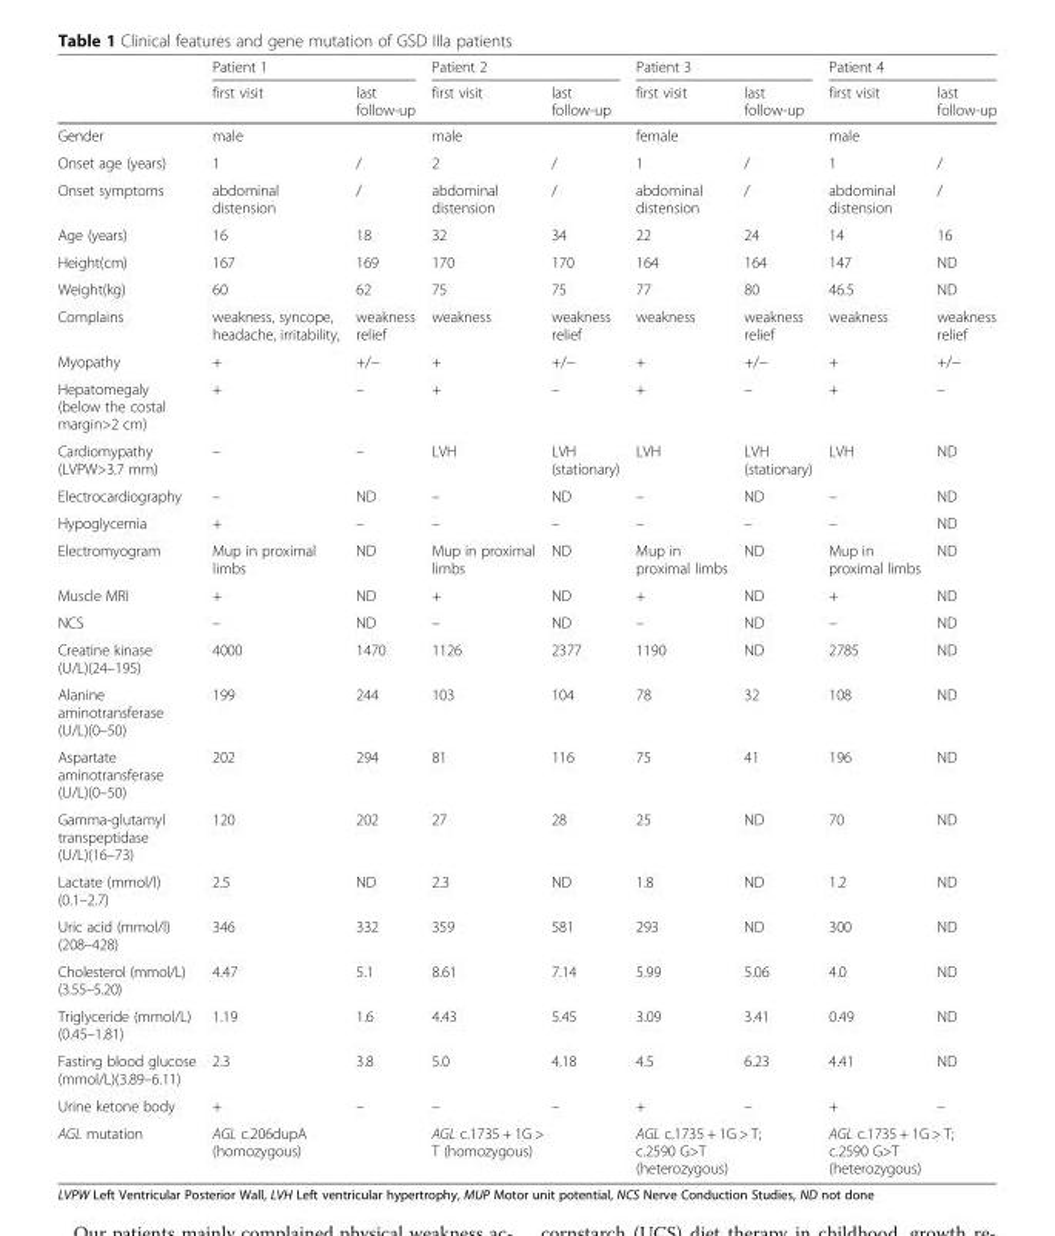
<table><thead><tr><td rowspan="2"></td><td colspan="2">Patient 1</td><td colspan="2">Patient 2</td><td colspan="2">Patient 3</td><td colspan="2">Patient 4</td></tr><tr><td>first visit</td><td>last follow-up</td><td>first visit</td><td>last follow-up</td><td>first visit</td><td>last follow-up</td><td>first visit</td><td>last follow-up</td></tr></thead><tbody><tr><td>Gender</td><td colspan="2">male</td><td colspan="2">male</td><td colspan="2">female</td><td colspan="2">male</td></tr><tr><td>Onset age (years)</td><td>1</td><td>/</td><td>2</td><td>/</td><td>1</td><td>/</td><td>1</td><td>/</td></tr><tr><td>Onset symptoms</td><td>abdominal distension</td><td>/</td><td>abdominal distension</td><td>/</td><td>abdominal distension</td><td>/</td><td>abdominal distension</td><td>/</td></tr><tr><td>Age (years)</td><td>16</td><td>18</td><td>32</td><td>34</td><td>22</td><td>24</td><td>14</td><td>16</td></tr><tr><td>Height(cm)</td><td>167</td><td>169</td><td>170</td><td>170</td><td>164</td><td>164</td><td>147</td><td>ND</td></tr><tr><td>Weight(kg)</td><td>60</td><td>62</td><td>75</td><td>75</td><td>77</td><td>80</td><td>46.5</td><td>ND</td></tr><tr><td>Complains</td><td>weakness, syncope, headache, irritability,</td><td>weakness relief</td><td>weakness</td><td>weakness relief</td><td>weakness</td><td>weakness relief</td><td>weakness</td><td>weakness relief</td></tr><tr><td>Myopathy</td><td>+</td><td>+/−</td><td>+</td><td>+/−</td><td>+</td><td>+/−</td><td>+</td><td>+/−</td></tr><tr><td>Hepatomegaly (below the costal margin&gt;2 cm)</td><td>+</td><td>–</td><td>+</td><td>–</td><td>+</td><td>–</td><td>+</td><td>–</td></tr><tr><td>Cardiomypathy (LVPW&gt;3.7 mm)</td><td>–</td><td>–</td><td>LVH</td><td>LVH (stationary)</td><td>LVH</td><td>LVH (stationary)</td><td>LVH</td><td>ND</td></tr><tr><td>Electrocardiography</td><td>–</td><td>ND</td><td>–</td><td>ND</td><td>–</td><td>ND</td><td>–</td><td>ND</td></tr><tr><td>Hypoglycemia</td><td>+</td><td>–</td><td>–</td><td>–</td><td>–</td><td>–</td><td>–</td><td>ND</td></tr><tr><td>Electromyogram</td><td>Mup in proximal limbs</td><td>ND</td><td>Mup in proximal limbs</td><td>ND</td><td>Mup in proximal limbs</td><td>ND</td><td>Mup in proximal limbs</td><td>ND</td></tr><tr><td>Muscle MRI</td><td>+</td><td>ND</td><td>+</td><td>ND</td><td>+</td><td>ND</td><td>+</td><td>ND</td></tr><tr><td>NCS</td><td>–</td><td>ND</td><td>–</td><td>ND</td><td>–</td><td>ND</td><td>–</td><td>ND</td></tr><tr><td>Creatine kinase (U/L)(24–195)</td><td>4000</td><td>1470</td><td>1126</td><td>2377</td><td>1190</td><td>ND</td><td>2785</td><td>ND</td></tr><tr><td>Alanine aminotransferase (U/L)(0–50)</td><td>199</td><td>244</td><td>103</td><td>104</td><td>78</td><td>32</td><td>108</td><td>ND</td></tr><tr><td>Aspartate aminotransferase (U/L)(0–50)</td><td>202</td><td>294</td><td>81</td><td>116</td><td>75</td><td>41</td><td>196</td><td>ND</td></tr><tr><td>Gamma-glutamyl transpeptidase (U/L)(16–73)</td><td>120</td><td>202</td><td>27</td><td>28</td><td>25</td><td>ND</td><td>70</td><td>ND</td></tr><tr><td>Lactate (mmol/l) (0.1–2.7)</td><td>2.5</td><td>ND</td><td>2.3</td><td>ND</td><td>1.8</td><td>ND</td><td>1.2</td><td>ND</td></tr><tr><td>Uric acid (mmol/l) (208–428)</td><td>346</td><td>332</td><td>359</td><td>581</td><td>293</td><td>ND</td><td>300</td><td>ND</td></tr><tr><td>Cholesterol (mmol/L) (3.55–5.20)</td><td>4.47</td><td>5.1</td><td>8.61</td><td>7.14</td><td>5.99</td><td>5.06</td><td>4.0</td><td>ND</td></tr><tr><td>Triglyceride (mmol/L) (0.45–1.81)</td><td>1.19</td><td>1.6</td><td>4.43</td><td>5.45</td><td>3.09</td><td>3.41</td><td>0.49</td><td>ND</td></tr><tr><td>Fasting blood glucose (mmol/L)(3.89–6.11)</td><td>2.3</td><td>3.8</td><td>5.0</td><td>4.18</td><td>4.5</td><td>6.23</td><td>4.41</td><td>ND</td></tr><tr><td>Urine ketone body</td><td>+</td><td>–</td><td>–</td><td>–</td><td>+</td><td>–</td><td>+</td><td>–</td></tr><tr><td>AGL mutation</td><td colspan="2">AGL c.206dupA (homozygous)</td><td colspan="2">AGL c.1735 + 1G &gt; T (homozygous)</td><td colspan="2">AGL c.1735 + 1G &gt; T; c.2590 G&gt;T (heterozygous)</td><td colspan="2">AGL c.1735 + 1G &gt; T; c.2590 G&gt;T (heterozygous)</td></tr></tbody></table>